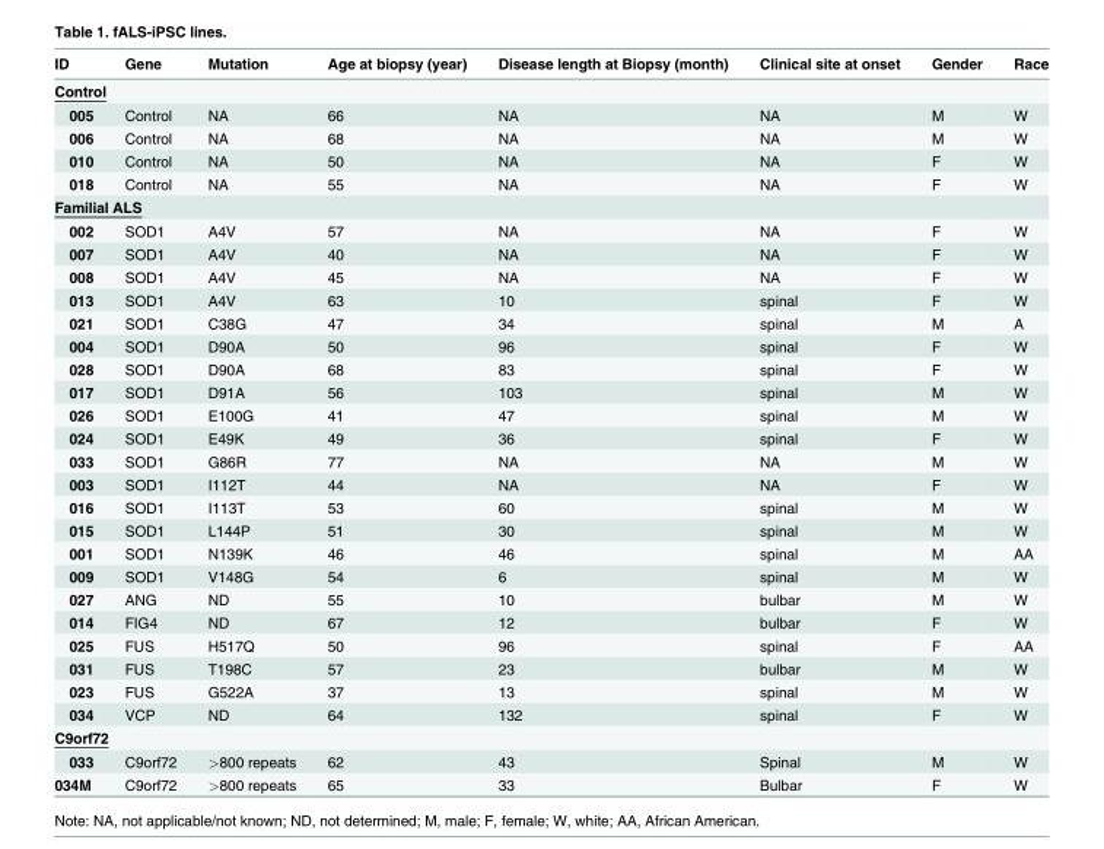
<table><thead><tr><td>ID</td><td>Gene</td><td>Mutation</td><td>Age at biopsy (year)</td><td>Disease length at Biopsy (month)</td><td>Clinical site at onset</td><td>Gender</td><td>Race</td></tr></thead><tbody><tr><td colspan="8">Control</td></tr><tr><td>005</td><td>Control</td><td>NA</td><td>66</td><td>NA</td><td>NA</td><td>M</td><td>W</td></tr><tr><td>006</td><td>Control</td><td>NA</td><td>68</td><td>NA</td><td>NA</td><td>M</td><td>W</td></tr><tr><td>010</td><td>Control</td><td>NA</td><td>50</td><td>NA</td><td>NA</td><td>F</td><td>W</td></tr><tr><td>018</td><td>Control</td><td>NA</td><td>55</td><td>NA</td><td>NA</td><td>F</td><td>W</td></tr><tr><td colspan="8">Familial ALS</td></tr><tr><td>002</td><td>SOD1</td><td>A4V</td><td>57</td><td>NA</td><td>NA</td><td>F</td><td>W</td></tr><tr><td>007</td><td>SOD1</td><td>A4V</td><td>40</td><td>NA</td><td>NA</td><td>F</td><td>W</td></tr><tr><td>008</td><td>SOD1</td><td>A4V</td><td>45</td><td>NA</td><td>NA</td><td>F</td><td>W</td></tr><tr><td>013</td><td>SOD1</td><td>A4V</td><td>63</td><td>10</td><td>spinal</td><td>F</td><td>W</td></tr><tr><td>021</td><td>SOD1</td><td>C38G</td><td>47</td><td>34</td><td>spinal</td><td>M</td><td>A</td></tr><tr><td>004</td><td>SOD1</td><td>D90A</td><td>50</td><td>96</td><td>spinal</td><td>F</td><td>W</td></tr><tr><td>028</td><td>SOD1</td><td>D90A</td><td>68</td><td>83</td><td>spinal</td><td>F</td><td>W</td></tr><tr><td>017</td><td>SOD1</td><td>D91A</td><td>56</td><td>103</td><td>spinal</td><td>M</td><td>W</td></tr><tr><td>026</td><td>SOD1</td><td>E100G</td><td>41</td><td>47</td><td>spinal</td><td>M</td><td>W</td></tr><tr><td>024</td><td>SOD1</td><td>E49K</td><td>49</td><td>36</td><td>spinal</td><td>F</td><td>W</td></tr><tr><td>033</td><td>SOD1</td><td>G86R</td><td>77</td><td>NA</td><td>NA</td><td>M</td><td>W</td></tr><tr><td>003</td><td>SOD1</td><td>I112T</td><td>44</td><td>NA</td><td>NA</td><td>F</td><td>W</td></tr><tr><td>016</td><td>SOD1</td><td>I113T</td><td>53</td><td>60</td><td>spinal</td><td>M</td><td>W</td></tr><tr><td>015</td><td>SOD1</td><td>L144P</td><td>51</td><td>30</td><td>spinal</td><td>M</td><td>W</td></tr><tr><td>001</td><td>SOD1</td><td>N139K</td><td>46</td><td>46</td><td>spinal</td><td>M</td><td>AA</td></tr><tr><td>009</td><td>SOD1</td><td>V148G</td><td>54</td><td>6</td><td>spinal</td><td>M</td><td>W</td></tr><tr><td>027</td><td>ANG</td><td>ND</td><td>55</td><td>10</td><td>bulbar</td><td>M</td><td>W</td></tr><tr><td>014</td><td>FIG4</td><td>ND</td><td>67</td><td>12</td><td>bulbar</td><td>F</td><td>W</td></tr><tr><td>025</td><td>FUS</td><td>H517Q</td><td>50</td><td>96</td><td>spinal</td><td>F</td><td>AA</td></tr><tr><td>031</td><td>FUS</td><td>T198C</td><td>57</td><td>23</td><td>bulbar</td><td>M</td><td>W</td></tr><tr><td>023</td><td>FUS</td><td>G522A</td><td>37</td><td>13</td><td>spinal</td><td>M</td><td>W</td></tr><tr><td>034</td><td>VCP</td><td>ND</td><td>64</td><td>132</td><td>spinal</td><td>F</td><td>W</td></tr><tr><td colspan="8">C9orf72</td></tr><tr><td>033</td><td>C9orf72</td><td>&gt;800 repeats</td><td>62</td><td>43</td><td>Spinal</td><td>M</td><td>W</td></tr><tr><td>034M</td><td>C9orf72</td><td>&gt;800 repeats</td><td>65</td><td>33</td><td>Bulbar</td><td>F</td><td>W</td></tr></tbody></table>